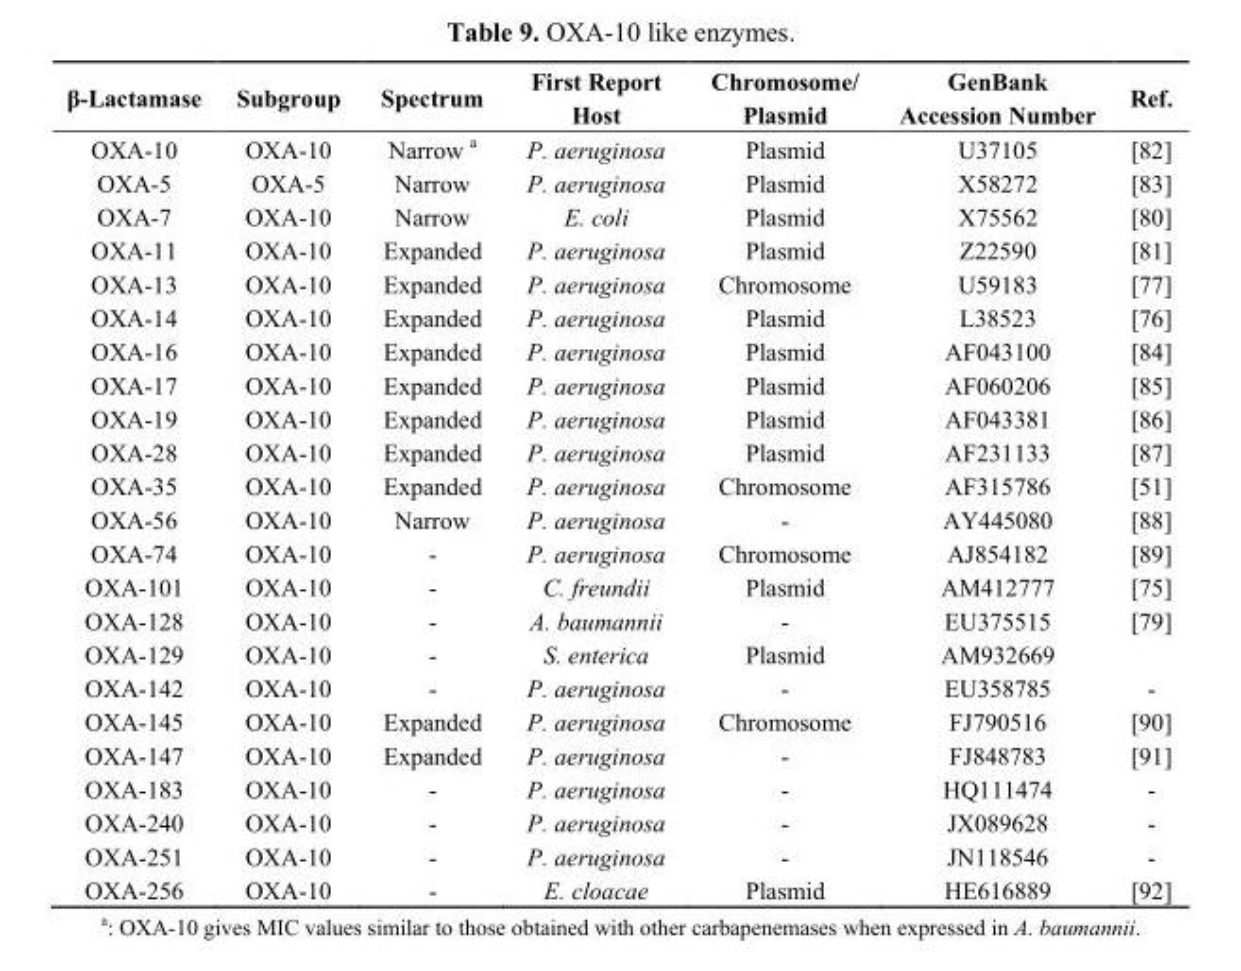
<table><thead><tr><td>β-Lactamase</td><td>Subgroup</td><td>Spectrum</td><td>First Report Host</td><td>Chromosome/ Plasmid</td><td>GenBank Accession Number</td><td>Ref.</td></tr></thead><tbody><tr><td>OXA-10</td><td>OXA-10</td><td>Narrow <sup>a</sup></td><td>P. aeruginosa</td><td>Plasmid</td><td>U37105</td><td>[82]</td></tr><tr><td>OXA-5</td><td>OXA-5</td><td>Narrow</td><td>P. aeruginosa</td><td>Plasmid</td><td>X58272</td><td>[83]</td></tr><tr><td>OXA-7</td><td>OXA-10</td><td>Narrow</td><td>E. coli</td><td>Plasmid</td><td>X75562</td><td>[80]</td></tr><tr><td>OXA-11</td><td>OXA-10</td><td>Expanded</td><td>P. aeruginosa</td><td>Plasmid</td><td>Z22590</td><td>[81]</td></tr><tr><td>OXA-13</td><td>OXA-10</td><td>Expanded</td><td>P. aeruginosa</td><td>Chromosome</td><td>U59183</td><td>[77]</td></tr><tr><td>OXA-14</td><td>OXA-10</td><td>Expanded</td><td>P. aeruginosa</td><td>Plasmid</td><td>L38523</td><td>[76]</td></tr><tr><td>OXA-16</td><td>OXA-10</td><td>Expanded</td><td>P. aeruginosa</td><td>Plasmid</td><td>AF043100</td><td>[84]</td></tr><tr><td>OXA-17</td><td>OXA-10</td><td>Expanded</td><td>P. aeruginosa</td><td>Plasmid</td><td>AF060206</td><td>[85]</td></tr><tr><td>OXA-19</td><td>OXA-10</td><td>Expanded</td><td>P. aeruginosa</td><td>Plasmid</td><td>AF043381</td><td>[86]</td></tr><tr><td>OXA-28</td><td>OXA-10</td><td>Expanded</td><td>P. aeruginosa</td><td>Plasmid</td><td>AF231133</td><td>[87]</td></tr><tr><td>OXA-35</td><td>OXA-10</td><td>Expanded</td><td>P. aeruginosa</td><td>Chromosome</td><td>AF315786</td><td>[51]</td></tr><tr><td>OXA-56</td><td>OXA-10</td><td>Narrow</td><td>P. aeruginosa</td><td>-</td><td>AY445080</td><td>[88]</td></tr><tr><td>OXA-74</td><td>OXA-10</td><td>-</td><td>P. aeruginosa</td><td>Chromosome</td><td>AJ854182</td><td>[89]</td></tr><tr><td>OXA-101</td><td>OXA-10</td><td>-</td><td>C. freundii</td><td>Plasmid</td><td>AM412777</td><td>[75]</td></tr><tr><td>OXA-128</td><td>OXA-10</td><td>-</td><td>A. baumannii</td><td>-</td><td>EU375515</td><td>[79]</td></tr><tr><td>OXA-129</td><td>OXA-10</td><td>-</td><td>S. enterica</td><td>Plasmid</td><td>AM932669</td><td></td></tr><tr><td>OXA-142</td><td>OXA-10</td><td>-</td><td>P. aeruginosa</td><td>-</td><td>EU358785</td><td>-</td></tr><tr><td>OXA-145</td><td>OXA-10</td><td>Expanded</td><td>P. aeruginosa</td><td>Chromosome</td><td>FJ790516</td><td>[90]</td></tr><tr><td>OXA-147</td><td>OXA-10</td><td>Expanded</td><td>P. aeruginosa</td><td>-</td><td>FJ848783</td><td>[91]</td></tr><tr><td>OXA-183</td><td>OXA-10</td><td>-</td><td>P. aeruginosa</td><td>-</td><td>HQ111474</td><td>-</td></tr><tr><td>OXA-240</td><td>OXA-10</td><td>-</td><td>P. aeruginosa</td><td>-</td><td>JX089628</td><td>-</td></tr><tr><td>OXA-251</td><td>OXA-10</td><td>-</td><td>P. aeruginosa</td><td>-</td><td>JN118546</td><td>-</td></tr><tr><td>OXA-256</td><td>OXA-10</td><td>-</td><td>E. cloacae</td><td>Plasmid</td><td>HE616889</td><td>[92]</td></tr></tbody></table>